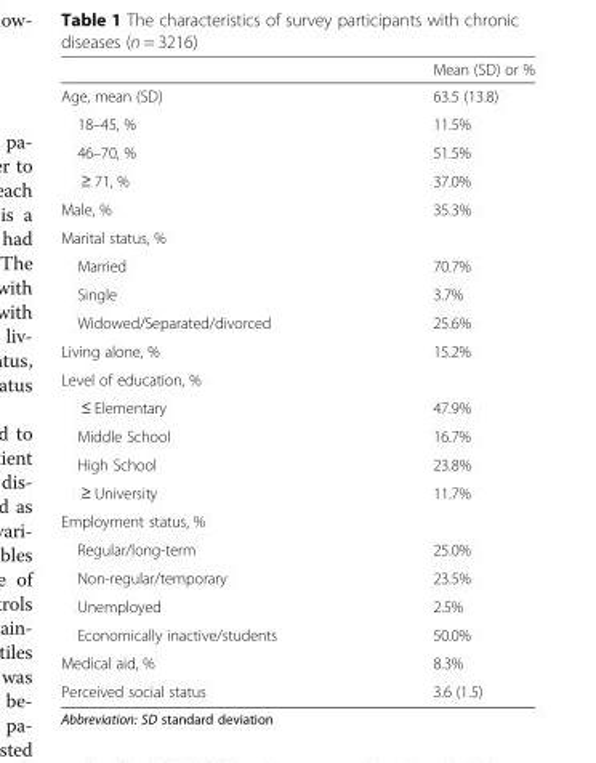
<table><thead><tr><td></td><td>Mean (SD) or %</td></tr></thead><tbody><tr><td>Age, mean (SD)</td><td>63.5 (13.8)</td></tr><tr><td>18–45, %</td><td>11.5%</td></tr><tr><td>46–70, %</td><td>51.5%</td></tr><tr><td>≥ 71, %</td><td>37.0%</td></tr><tr><td>Male, %</td><td>35.3%</td></tr><tr><td colspan="2">Marital status, %</td></tr><tr><td>Married</td><td>70.7%</td></tr><tr><td>Single</td><td>3.7%</td></tr><tr><td>Widowed/Separated/divorced</td><td>25.6%</td></tr><tr><td>Living alone, %</td><td>15.2%</td></tr><tr><td colspan="2">Level of education, %</td></tr><tr><td>≤ Elementary</td><td>47.9%</td></tr><tr><td>Middle School</td><td>16.7%</td></tr><tr><td>High School</td><td>23.8%</td></tr><tr><td>≥ University</td><td>11.7%</td></tr><tr><td colspan="2">Employment status, %</td></tr><tr><td>Regular/long-term</td><td>25.0%</td></tr><tr><td>Non-regular/temporary</td><td>23.5%</td></tr><tr><td>Unemployed</td><td>2.5%</td></tr><tr><td>Economically inactive/students</td><td>50.0%</td></tr><tr><td>Medical aid, %</td><td>8.3%</td></tr><tr><td>Perceived social status</td><td>3.6 (1.5)</td></tr></tbody></table>